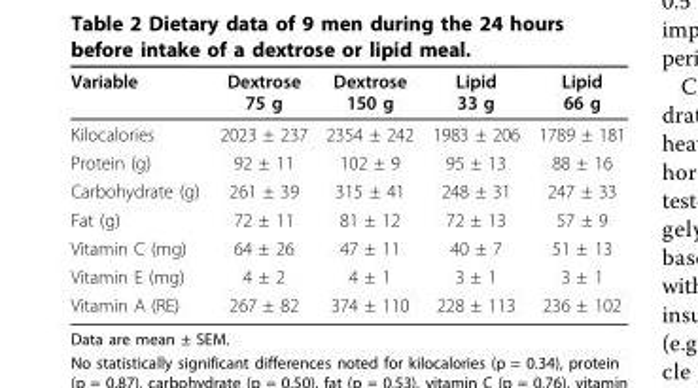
<table><thead><tr><td>Variable</td><td>Dextrose 75 g</td><td>Dextrose 150 g</td><td>Lipid 33 g</td><td>Lipid 66 g</td></tr></thead><tbody><tr><td>Kilocalories</td><td>2023 ± 237</td><td>2354 ± 242</td><td>1983 ± 206</td><td>1789 ± 181</td></tr><tr><td>Protein (g)</td><td>92 ± 11</td><td>102 ± 9</td><td>95 ± 13</td><td>88 ± 16</td></tr><tr><td>Carbohydrate (g)</td><td>261 ± 39</td><td>315 ± 41</td><td>248 ± 31</td><td>247 ± 33</td></tr><tr><td>Fat (g)</td><td>72 ± 11</td><td>81 ± 12</td><td>72 ± 13</td><td>57 ± 9</td></tr><tr><td>Vitamin C (mg)</td><td>64 ± 26</td><td>47 ± 11</td><td>40 ± 7</td><td>51 ± 13</td></tr><tr><td>Vitamin E (mg)</td><td>4 ± 2</td><td>4 ± 1</td><td>3 ± 1</td><td>3 ± 1</td></tr><tr><td>Vitamin A (RE)</td><td>267 ± 82</td><td>374 ± 110</td><td>228 ± 113</td><td>236 ± 102</td></tr></tbody></table>